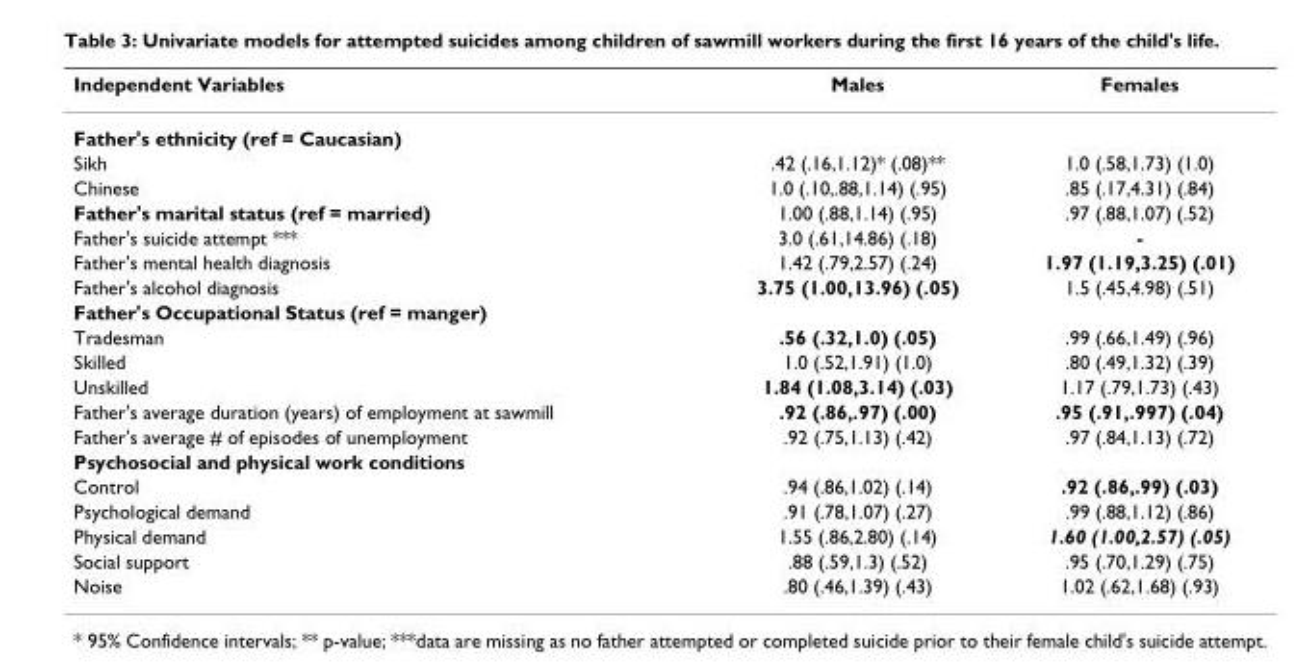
<table><thead><tr><td>Independent Variables</td><td>Males</td><td>Females</td></tr></thead><tbody><tr><td colspan="3">Father&#x27;s ethnicity (ref = Caucasian)</td></tr><tr><td>Sikh</td><td>.42 (.16,1.12)* (.08)**</td><td>1.0 (.58,1.73) (1.0)</td></tr><tr><td>Chinese</td><td>1.0 (.10,.88,1.14) (.95)</td><td>.85 (.17,4.31) (.84)</td></tr><tr><td>Father&#x27;s marital status (ref = married)</td><td>1.00 (.88,1.14) (.95)</td><td>.97 (.88,1.07) (.52)</td></tr><tr><td>Father&#x27;s suicide attempt ***</td><td>3.0 (.61,14.86) (.18)</td><td>-</td></tr><tr><td>Father&#x27;s mental health diagnosis</td><td>1.42 (.79,2.57) (.24)</td><td>1.97 (1.19,3.25) (.01)</td></tr><tr><td>Father&#x27;s alcohol diagnosis</td><td>3.75 (1.00,13.96) (.05)</td><td>1.5 (.45,4.98) (.51)</td></tr><tr><td colspan="3">Father&#x27;s Occupational Status (ref = manger)</td></tr><tr><td>Tradesman</td><td>.56 (.32,1.0) (.05)</td><td>.99 (.66,1.49) (.96)</td></tr><tr><td>Skilled</td><td>1.0 (.52,1.91) (1.0)</td><td>.80 (.49,1.32) (.39)</td></tr><tr><td>Unskilled</td><td>1.84 (1.08,3.14) (.03)</td><td>1.17 (.79,1.73) (.43)</td></tr><tr><td>Father&#x27;s average duration (years) of employment at sawmill</td><td>.92 (.86,.97) (.00)</td><td>.95 (.91,.997) (.04)</td></tr><tr><td>Father&#x27;s average # of episodes of unemployment</td><td>.92 (.75,1.13) (.42)</td><td>.97 (.84,1.13) (.72)</td></tr><tr><td colspan="3">Psychosocial and physical work conditions</td></tr><tr><td>Control</td><td>.94 (.86,1.02) (.14)</td><td>.92 (.86,.99) (.03)</td></tr><tr><td>Psychological demand</td><td>.91 (.78,1.07) (.27)</td><td>.99 (.88,1.12) (.86)</td></tr><tr><td>Physical demand</td><td>1.55 (.86,2.80) (.14)</td><td>1.60 (1.00,2.57) (.05)</td></tr><tr><td>Social support</td><td>.88 (.59,1.3) (.52)</td><td>.95 (.70,1.29) (.75)</td></tr><tr><td>Noise</td><td>.80 (.46,1.39) (.43)</td><td>1.02 (.62,1.68) (.93)</td></tr></tbody></table>